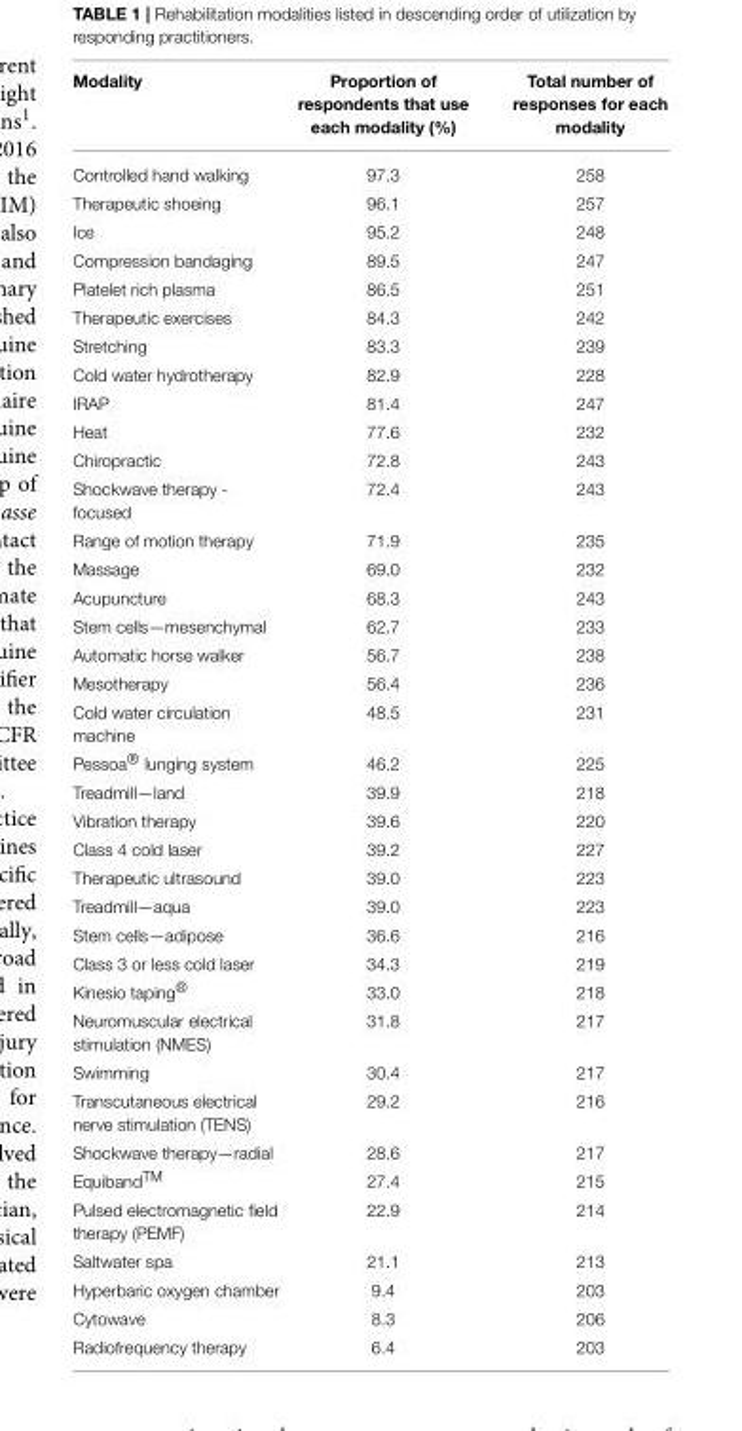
<table><thead><tr><td>Modality</td><td>Proportion of respondents that use each modality (%)</td><td>Total number of responses for each modality</td></tr></thead><tbody><tr><td>Controlled hand walking</td><td>97.3</td><td>258</td></tr><tr><td>Therapeutic shoeing</td><td>96.1</td><td>257</td></tr><tr><td>Ice</td><td>95.2</td><td>248</td></tr><tr><td>Compression bandaging</td><td>89.5</td><td>247</td></tr><tr><td>Platelet rich plasma</td><td>86.5</td><td>251</td></tr><tr><td>Therapeutic exercises</td><td>84.3</td><td>242</td></tr><tr><td>Stretching</td><td>83.3</td><td>239</td></tr><tr><td>Cold water hydrotherapy</td><td>82.9</td><td>228</td></tr><tr><td>IRAP</td><td>81.4</td><td>247</td></tr><tr><td>Heat</td><td>77.6</td><td>232</td></tr><tr><td>Chiropractic</td><td>72.8</td><td>243</td></tr><tr><td>Shockwave therapy - focused</td><td>72.4</td><td>243</td></tr><tr><td>Range of motion therapy</td><td>71.9</td><td>235</td></tr><tr><td>Massage</td><td>69.0</td><td>232</td></tr><tr><td>Acupuncture</td><td>68.3</td><td>243</td></tr><tr><td>Stem cells—mesenchymal</td><td>62.7</td><td>233</td></tr><tr><td>Automatic horse walker</td><td>56.7</td><td>238</td></tr><tr><td>Mesotherapy</td><td>56.4</td><td>236</td></tr><tr><td>Cold water circulation machine</td><td>48.5</td><td>231</td></tr><tr><td>Pessoa® lunging system</td><td>46.2</td><td>225</td></tr><tr><td>Treadmill—land</td><td>39.9</td><td>218</td></tr><tr><td>Vibration therapy</td><td>39.6</td><td>220</td></tr><tr><td>Class 4 cold laser</td><td>39.2</td><td>227</td></tr><tr><td>Therapeutic ultrasound</td><td>39.0</td><td>223</td></tr><tr><td>Treadmill—aqua</td><td>39.0</td><td>223</td></tr><tr><td>Stem cells—adipose</td><td>36.6</td><td>216</td></tr><tr><td>Class 3 or less cold laser</td><td>34.3</td><td>219</td></tr><tr><td>Kinesio taping®</td><td>33.0</td><td>218</td></tr><tr><td>Neuromuscular electrical stimulation (NMES)</td><td>31.8</td><td>217</td></tr><tr><td>Swimming</td><td>30.4</td><td>217</td></tr><tr><td>Transcutaneous electrical nerve stimulation (TENS)</td><td>29.2</td><td>216</td></tr><tr><td>Shockwave therapy—radial</td><td>28.6</td><td>217</td></tr><tr><td>EquibandTM</td><td>27.4</td><td>215</td></tr><tr><td>Pulsed electromagnetic field therapy (PEMF)</td><td>22.9</td><td>214</td></tr><tr><td>Saltwater spa</td><td>21.1</td><td>213</td></tr><tr><td>Hyperbaric oxygen chamber</td><td>9.4</td><td>203</td></tr><tr><td>Cytowave</td><td>8.3</td><td>206</td></tr><tr><td>Radiofrequency therapy</td><td>6.4</td><td>203</td></tr></tbody></table>